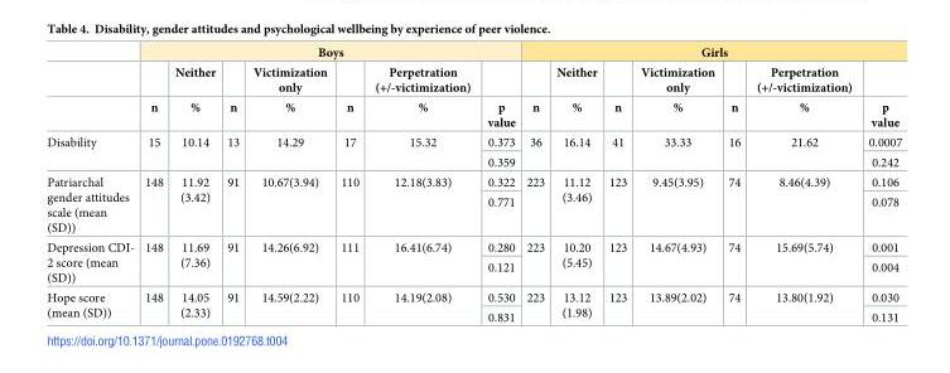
<table><thead><tr><td rowspan="3"></td><td colspan="7">Boys</td><td colspan="7">Girls</td></tr><tr><td rowspan="2">n</td><td rowspan="2">Neither %</td><td rowspan="2">n</td><td rowspan="2">Victimization only %</td><td rowspan="2">n</td><td rowspan="2">Perpetration (+/-victimization) %</td><td rowspan="2">p value</td><td rowspan="2">n</td><td rowspan="2">Neither %</td><td rowspan="2">n</td><td rowspan="2">Victimization only %</td><td rowspan="2">n</td><td rowspan="2">Perpetration (+/-victimization) %</td><td rowspan="2">p value</td></tr><tr></tr></thead><tbody><tr><td rowspan="2">Disability</td><td rowspan="2">15</td><td rowspan="2">10.14</td><td rowspan="2">13</td><td rowspan="2">14.29</td><td rowspan="2">17</td><td rowspan="2">15.32</td><td>0.373</td><td rowspan="2">36</td><td rowspan="2">16.14</td><td rowspan="2">41</td><td rowspan="2">33.33</td><td rowspan="2">16</td><td rowspan="2">21.62</td><td>0.0007</td></tr><tr><td>0.359</td><td>0.242</td></tr><tr><td rowspan="2">Patriarchal gender attitudes scale (mean (SD))</td><td rowspan="2">148</td><td rowspan="2">11.92 (3.42)</td><td rowspan="2">91</td><td rowspan="2">10.67(3.94)</td><td rowspan="2">110</td><td rowspan="2">12.18(3.83)</td><td>0.322</td><td rowspan="2">223</td><td rowspan="2">11.12 (3.46)</td><td rowspan="2">123</td><td rowspan="2">9.45(3.95)</td><td rowspan="2">74</td><td rowspan="2">8.46(4.39)</td><td>0.106</td></tr><tr><td>0.771</td><td>0.078</td></tr><tr><td rowspan="2">Depression CDI- 2 score (mean (SD))</td><td rowspan="2">148</td><td rowspan="2">11.69 (7.36)</td><td rowspan="2">91</td><td rowspan="2">14.26(6.92)</td><td rowspan="2">111</td><td rowspan="2">16.41(6.74)</td><td>0.280</td><td rowspan="2">223</td><td rowspan="2">10.20 (5.45)</td><td rowspan="2">123</td><td rowspan="2">14.67(4.93)</td><td rowspan="2">74</td><td rowspan="2">15.69(5.74)</td><td>0.001</td></tr><tr><td>0.121</td><td>0.004</td></tr><tr><td rowspan="2">Hope score (mean (SD))</td><td rowspan="2">148</td><td rowspan="2">14.05 (2.33)</td><td rowspan="2">91</td><td rowspan="2">14.59(2.22)</td><td rowspan="2">110</td><td rowspan="2">14.19(2.08)</td><td>0.530</td><td rowspan="2">223</td><td rowspan="2">13.12 (1.98)</td><td rowspan="2">123</td><td rowspan="2">13.89(2.02)</td><td rowspan="2">74</td><td rowspan="2">13.80(1.92)</td><td>0.030</td></tr><tr><td>0.831</td><td>0.131</td></tr></tbody></table>